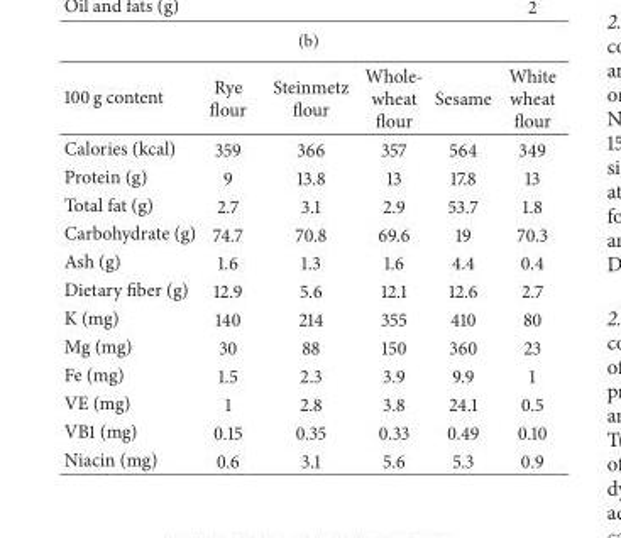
<table><thead><tr><td>100 g content</td><td>Rye flour</td><td>Steinmetz flour</td><td>Whole- wheat flour</td><td>Sesame</td><td>White wheat flour</td></tr></thead><tbody><tr><td>Calories (kcal)</td><td>359</td><td>366</td><td>357</td><td>564</td><td>349</td></tr><tr><td>Protein (g)</td><td>9</td><td>13.8</td><td>13</td><td>17.8</td><td>13</td></tr><tr><td>Total fat (g)</td><td>2.7</td><td>3.1</td><td>2.9</td><td>53.7</td><td>1.8</td></tr><tr><td>Carbohydrate (g)</td><td>74.7</td><td>70.8</td><td>69.6</td><td>19</td><td>70.3</td></tr><tr><td>Ash (g)</td><td>1.6</td><td>1.3</td><td>1.6</td><td>4.4</td><td>0.4</td></tr><tr><td>Dietary fiber (g)</td><td>12.9</td><td>5.6</td><td>12.1</td><td>12.6</td><td>2.7</td></tr><tr><td>K (mg)</td><td>140</td><td>214</td><td>355</td><td>410</td><td>80</td></tr><tr><td>Mg (mg)</td><td>30</td><td>88</td><td>150</td><td>360</td><td>23</td></tr><tr><td>Fe (mg)</td><td>1.5</td><td>2.3</td><td>3.9</td><td>9.9</td><td>1</td></tr><tr><td>VE (mg)</td><td>1</td><td>2.8</td><td>3.8</td><td>24.1</td><td>0.5</td></tr><tr><td>VB1 (mg)</td><td>0.15</td><td>0.35</td><td>0.33</td><td>0.49</td><td>0.10</td></tr><tr><td>Niacin (mg)</td><td>0.6</td><td>3.1</td><td>5.6</td><td>5.3</td><td>0.9</td></tr></tbody></table>